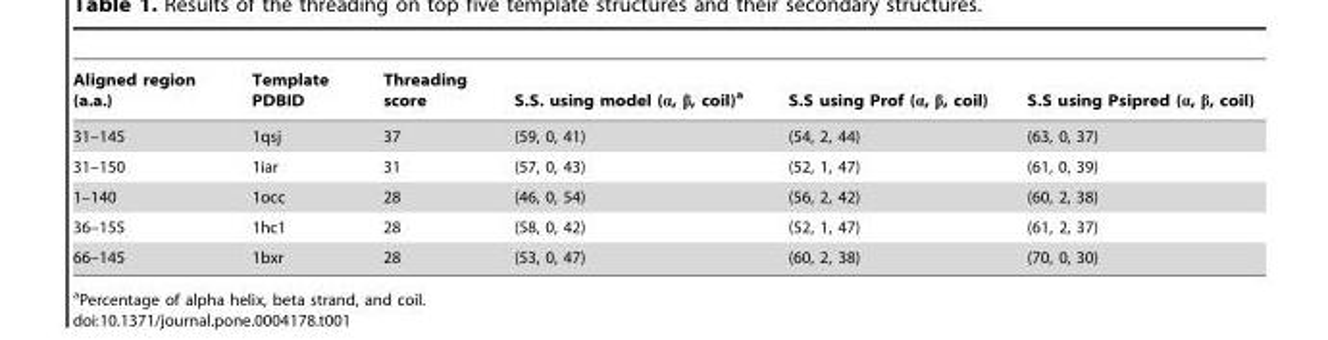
<table><thead><tr><td>Aligned region (a.a.)</td><td>Template PDBID</td><td>Threading score</td><td>S.S. using model (α, β, coil)<sup>a</sup></td><td>S.S using Prof (α, β, coil)</td><td>S.S using Psipred (α, β, coil)</td></tr></thead><tbody><tr><td>31–145</td><td>1qsj</td><td>37</td><td>(59, 0, 41)</td><td>(54, 2, 44)</td><td>(63, 0, 37)</td></tr><tr><td>31–150</td><td>1iar</td><td>31</td><td>(57, 0, 43)</td><td>(52, 1, 47)</td><td>(61, 0, 39)</td></tr><tr><td>1–140</td><td>1occ</td><td>28</td><td>(46, 0, 54)</td><td>(56, 2, 42)</td><td>(60, 2, 38)</td></tr><tr><td>36–155</td><td>1hc1</td><td>28</td><td>(58, 0, 42)</td><td>(52, 1, 47)</td><td>(61, 2, 37)</td></tr><tr><td>66–145</td><td>1bxr</td><td>28</td><td>(53, 0, 47)</td><td>(60, 2, 38)</td><td>(70, 0, 30)</td></tr></tbody></table>